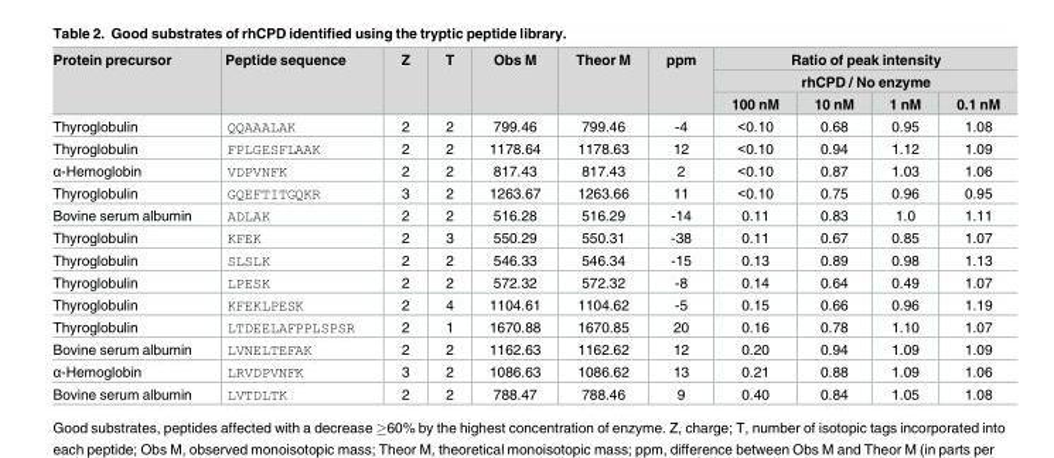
<table><thead><tr><td rowspan="3">Protein precursor</td><td rowspan="3">Peptide sequence</td><td rowspan="3">Z</td><td rowspan="3">T</td><td rowspan="3">Obs M</td><td rowspan="3">Theor M</td><td rowspan="3">ppm</td><td rowspan="2" colspan="4">Ratio of peak intensity rhCPD / No enzyme</td></tr><tr></tr><tr><td>100 nM</td><td>10 nM</td><td>1 nM</td><td>0.1 nM</td></tr></thead><tbody><tr><td>Thyroglobulin</td><td>QQAAALAK</td><td>2</td><td>2</td><td>799.46</td><td>799.46</td><td>-4</td><td>&lt;0.10</td><td>0.68</td><td>0.95</td><td>1.08</td></tr><tr><td>Thyroglobulin</td><td>FPLGESFLAAK</td><td>2</td><td>2</td><td>1178.64</td><td>1178.63</td><td>12</td><td>&lt;0.10</td><td>0.94</td><td>1.12</td><td>1.09</td></tr><tr><td>α-Hemoglobin</td><td>VDPVNFK</td><td>2</td><td>2</td><td>817.43</td><td>817.43</td><td>2</td><td>&lt;0.10</td><td>0.87</td><td>1.03</td><td>1.06</td></tr><tr><td>Thyroglobulin</td><td>GQEFTITGQKR</td><td>3</td><td>2</td><td>1263.67</td><td>1263.66</td><td>11</td><td>&lt;0.10</td><td>0.75</td><td>0.96</td><td>0.95</td></tr><tr><td>Bovine serum albumin</td><td>ADLAK</td><td>2</td><td>2</td><td>516.28</td><td>516.29</td><td>-14</td><td>0.11</td><td>0.83</td><td>1.0</td><td>1.11</td></tr><tr><td>Thyroglobulin</td><td>KFEK</td><td>2</td><td>3</td><td>550.29</td><td>550.31</td><td>-38</td><td>0.11</td><td>0.67</td><td>0.85</td><td>1.07</td></tr><tr><td>Thyroglobulin</td><td>SLSLK</td><td>2</td><td>2</td><td>546.33</td><td>546.34</td><td>-15</td><td>0.13</td><td>0.89</td><td>0.98</td><td>1.13</td></tr><tr><td>Thyroglobulin</td><td>LPESK</td><td>2</td><td>2</td><td>572.32</td><td>572.32</td><td>-8</td><td>0.14</td><td>0.64</td><td>0.49</td><td>1.07</td></tr><tr><td>Thyroglobulin</td><td>KFEKLPESK</td><td>2</td><td>4</td><td>1104.61</td><td>1104.62</td><td>-5</td><td>0.15</td><td>0.66</td><td>0.96</td><td>1.19</td></tr><tr><td>Thyroglobulin</td><td>LTDEELAFPPLSPSR</td><td>2</td><td>1</td><td>1670.88</td><td>1670.85</td><td>20</td><td>0.16</td><td>0.78</td><td>1.10</td><td>1.07</td></tr><tr><td>Bovine serum albumin</td><td>LVNELTEFAK</td><td>2</td><td>2</td><td>1162.63</td><td>1162.62</td><td>12</td><td>0.20</td><td>0.94</td><td>1.09</td><td>1.09</td></tr><tr><td>α-Hemoglobin</td><td>LRVDPVNFK</td><td>3</td><td>2</td><td>1086.63</td><td>1086.62</td><td>13</td><td>0.21</td><td>0.88</td><td>1.09</td><td>1.06</td></tr><tr><td>Bovine serum albumin</td><td>LVTDLTK</td><td>2</td><td>2</td><td>788.47</td><td>788.46</td><td>9</td><td>0.40</td><td>0.84</td><td>1.05</td><td>1.08</td></tr></tbody></table>